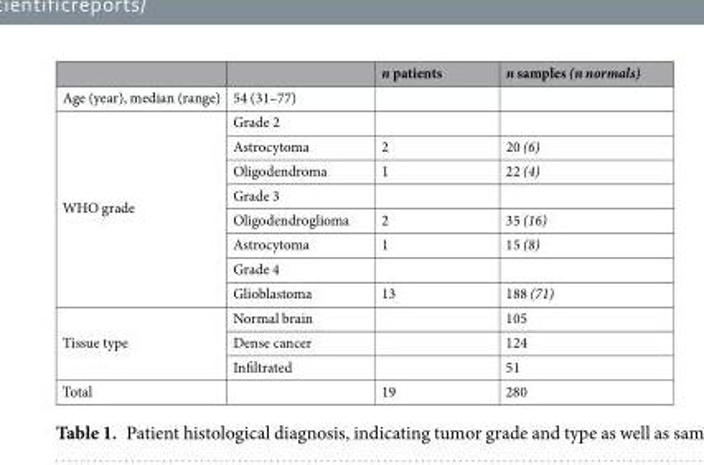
<table><thead><tr><td></td><td></td><td>n patients</td><td>n samples (n normals)</td></tr></thead><tbody><tr><td>Age (year), median (range)</td><td>54 (31–77)</td><td></td><td></td></tr><tr><td rowspan="8">WHO grade</td><td>Grade 2</td><td></td><td></td></tr><tr><td>Astrocytoma</td><td>2</td><td>20 (6)</td></tr><tr><td>Oligodendroma</td><td>1</td><td>22 (4)</td></tr><tr><td>Grade 3</td><td></td><td></td></tr><tr><td>Oligodendroglioma</td><td>2</td><td>35 (16)</td></tr><tr><td>Astrocytoma</td><td>1</td><td>15 (8)</td></tr><tr><td>Grade 4</td><td></td><td></td></tr><tr><td>Glioblastoma</td><td>13</td><td>188 (71)</td></tr><tr><td rowspan="3">Tissue type</td><td>Normal brain</td><td></td><td>105</td></tr><tr><td>Dense cancer</td><td></td><td>124</td></tr><tr><td>Infiltrated</td><td></td><td>51</td></tr><tr><td>Total</td><td></td><td>19</td><td>280</td></tr></tbody></table>